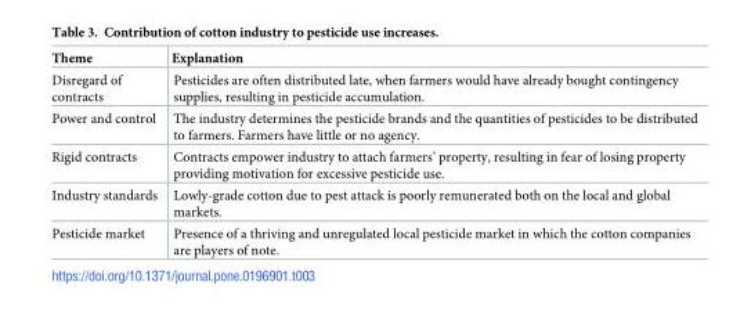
<table><thead><tr><td>Theme</td><td>Explanation</td></tr></thead><tbody><tr><td>Disregard of contracts</td><td>Pesticides are often distributed late, when farmers would have already bought contingency supplies, resulting in pesticide accumulation.</td></tr><tr><td>Power and control</td><td>The industry determines the pesticide brands and the quantities of pesticides to be distributed to farmers. Farmers have little or no agency.</td></tr><tr><td>Rigid contracts</td><td>Contracts empower industry to attach farmers’ property, resulting in fear of losing property providing motivation for excessive pesticide use.</td></tr><tr><td>Industry standards</td><td>Lowly-grade cotton due to pest attack is poorly remunerated both on the local and global markets.</td></tr><tr><td>Pesticide market</td><td>Presence of a thriving and unregulated local pesticide market in which the cotton companies are players of note.</td></tr></tbody></table>